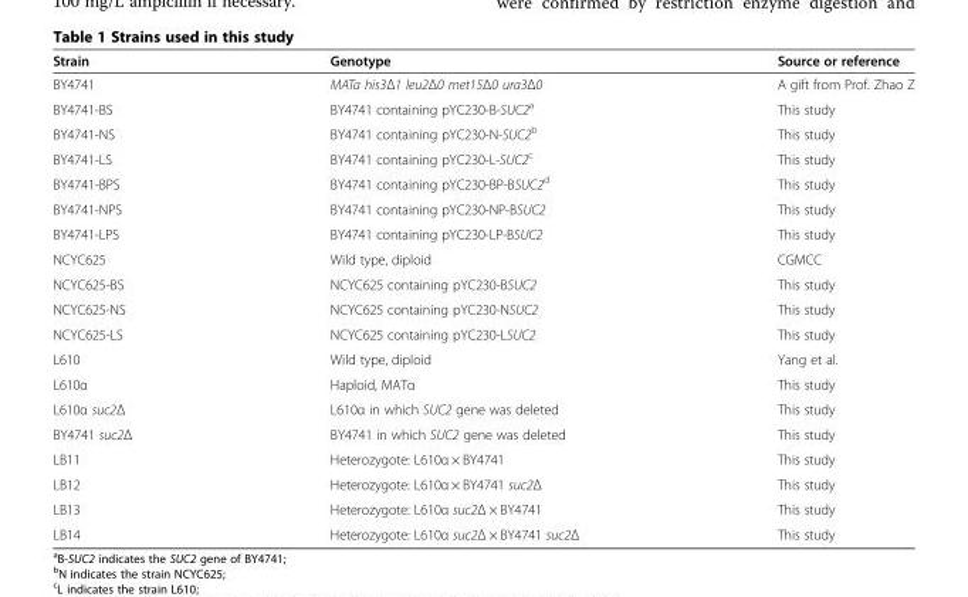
<table><thead><tr><td>Strain</td><td>Genotype</td><td>Source or reference</td></tr></thead><tbody><tr><td>BY4741</td><td>MATa his3Δ1 leu2Δ0 met15Δ0 ura3Δ0</td><td>A gift from Prof. Zhao Z</td></tr><tr><td>BY4741-BS</td><td>BY4741 containing pYC230-B-SUC2<sup>a</sup></td><td>This study</td></tr><tr><td>BY4741-NS</td><td>BY4741 containing pYC230-N-SUC2<sup>b</sup></td><td>This study</td></tr><tr><td>BY4741-LS</td><td>BY4741 containing pYC230-L-SUC2<sup>c</sup></td><td>This study</td></tr><tr><td>BY4741-BPS</td><td>BY4741 containing pYC230-BP-BSUC2<sup>d</sup></td><td>This study</td></tr><tr><td>BY4741-NPS</td><td>BY4741 containing pYC230-NP-BSUC2</td><td>This study</td></tr><tr><td>BY4741-LPS</td><td>BY4741 containing pYC230-LP-BSUC2</td><td>This study</td></tr><tr><td>NCYC625</td><td>Wild type, diploid</td><td>CGMCC</td></tr><tr><td>NCYC625-BS</td><td>NCYC625 containing pYC230-BSUC2</td><td>This study</td></tr><tr><td>NCYC625-NS</td><td>NCYC625 containing pYC230-NSUC2</td><td>This study</td></tr><tr><td>NCYC625-LS</td><td>NCYC625 containing pYC230-LSUC2</td><td>This study</td></tr><tr><td>L610</td><td>Wild type, diploid</td><td>Yang et al.</td></tr><tr><td>L610α</td><td>Haploid, MATα</td><td>This study</td></tr><tr><td>L610α suc2Δ</td><td>L610α in which SUC2 gene was deleted</td><td>This study</td></tr><tr><td>BY4741 suc2Δ</td><td>BY4741 in which SUC2 gene was deleted</td><td>This study</td></tr><tr><td>LB11</td><td>Heterozygote: L610α × BY4741</td><td>This study</td></tr><tr><td>LB12</td><td>Heterozygote: L610α × BY4741 suc2Δ</td><td>This study</td></tr><tr><td>LB13</td><td>Heterozygote: L610α suc2Δ × BY4741</td><td>This study</td></tr><tr><td>LB14</td><td>Heterozygote: L610α suc2Δ × BY4741 suc2Δ</td><td>This study</td></tr></tbody></table>